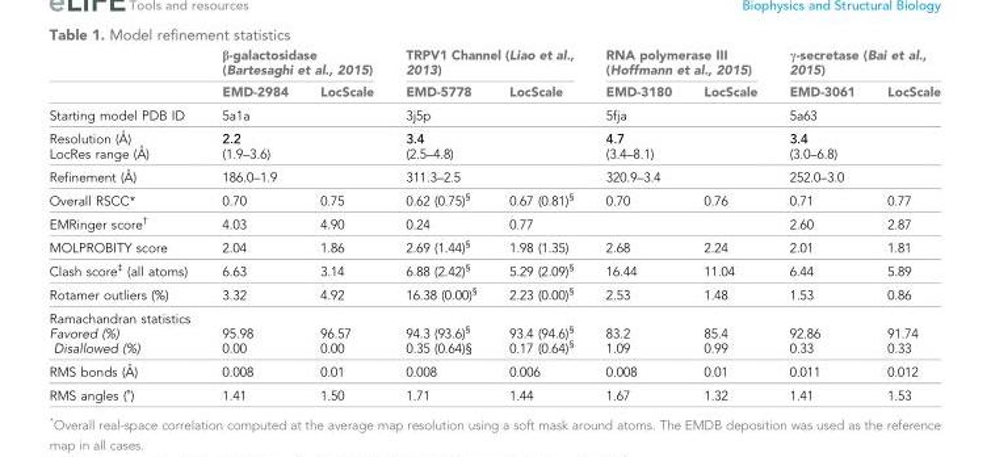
<table><thead><tr><td rowspan="2"></td><td colspan="2">β-galactosidase (Bartesaghi et al., 2015)</td><td colspan="2">TRPV1 Channel (Liao et al., 2013)</td><td colspan="2">RNA polymerase III (Hoffmann et al., 2015)</td><td colspan="2">γ-secretase (Bai et al., 2015)</td></tr><tr><td>EMD-2984</td><td>LocScale</td><td>EMD-5778</td><td>LocScale</td><td>EMD-3180</td><td>LocScale</td><td>EMD-3061</td><td>LocScale</td></tr></thead><tbody><tr><td>Starting model PDB ID</td><td colspan="2">5a1a</td><td colspan="2">3j5p</td><td colspan="2">5fja</td><td colspan="2">5a63</td></tr><tr><td>Resolution (A˚ ) LocRes range (A˚ )</td><td colspan="2">2.2 (1.9–3.6)</td><td colspan="2">3.4 (2.5–4.8)</td><td colspan="2">4.7 (3.4–8.1)</td><td colspan="2">3.4 (3.0–6.8)</td></tr><tr><td>Refinement (A˚ )</td><td colspan="2">186.0–1.9</td><td colspan="2">311.3–2.5</td><td colspan="2">320.9–3.4</td><td colspan="2">252.0–3.0</td></tr><tr><td>Overall RSCC*</td><td>0.70</td><td>0.75</td><td>0.62 (0.75)<sup>§</sup></td><td>0.67 (0.81)<sup>§</sup></td><td>0.70</td><td>0.76</td><td>0.71</td><td>0.77</td></tr><tr><td>EMRinger score<sup>†</sup></td><td>4.03</td><td>4.90</td><td>0.24</td><td>0.77</td><td></td><td></td><td>2.60</td><td>2.87</td></tr><tr><td>MOLPROBITY score</td><td>2.04</td><td>1.86</td><td>2.69 (1.44)<sup>§</sup></td><td>1.98 (1.35)</td><td>2.68</td><td>2.24</td><td>2.01</td><td>1.81</td></tr><tr><td>Clash score<sup>‡</sup> (all atoms)</td><td>6.63</td><td>3.14</td><td>6.88 (2.42)<sup>§</sup></td><td>5.29 (2.09)<sup>§</sup></td><td>16.44</td><td>11.04</td><td>6.44</td><td>5.89</td></tr><tr><td>Rotamer outliers (%)</td><td>3.32</td><td>4.92</td><td>16.38 (0.00)<sup>§</sup></td><td>2.23 (0.00)<sup>§</sup></td><td>2.53</td><td>1.48</td><td>1.53</td><td>0.86</td></tr><tr><td>Ramachandran statistics Favored (%) Disallowed (%)</td><td>95.98 0.00</td><td>96.57 0.00</td><td>94.3 (93.6)<sup>§</sup> 0.35 (0.64)§</td><td>93.4 (94.6)<sup>§</sup> 0.17 (0.64)<sup>§</sup></td><td>83.2 1.09</td><td>85.4 0.99</td><td>92.86 0.33</td><td>91.74 0.33</td></tr><tr><td>RMS bonds (A˚ )</td><td>0.008</td><td>0.01</td><td>0.008</td><td>0.006</td><td>0.008</td><td>0.01</td><td>0.011</td><td>0.012</td></tr><tr><td>RMS angles (˚)</td><td>1.41</td><td>1.50</td><td>1.71</td><td>1.44</td><td>1.67</td><td>1.32</td><td>1.41</td><td>1.53</td></tr></tbody></table>